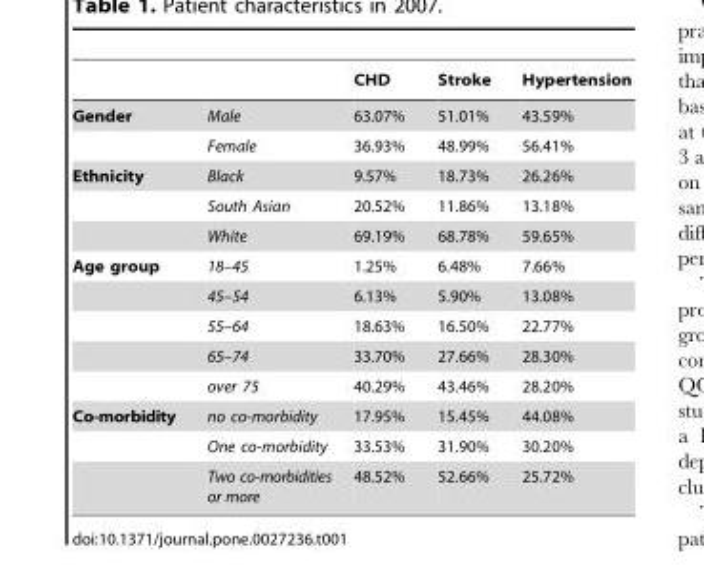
<table><thead><tr><td></td><td></td><td>CHD</td><td>Stroke</td><td>Hypertension</td></tr></thead><tbody><tr><td rowspan="2">Gender</td><td>Male</td><td>63.07%</td><td>51.01%</td><td>43.59%</td></tr><tr><td>Female</td><td>36.93%</td><td>48.99%</td><td>56.41%</td></tr><tr><td rowspan="3">Ethnicity</td><td>Black</td><td>9.57%</td><td>18.73%</td><td>26.26%</td></tr><tr><td>South Asian</td><td>20.52%</td><td>11.86%</td><td>13.18%</td></tr><tr><td>White</td><td>69.19%</td><td>68.78%</td><td>59.65%</td></tr><tr><td rowspan="5">Age group</td><td>18–45</td><td>1.25%</td><td>6.48%</td><td>7.66%</td></tr><tr><td>45–54</td><td>6.13%</td><td>5.90%</td><td>13.08%</td></tr><tr><td>55–64</td><td>18.63%</td><td>16.50%</td><td>22.77%</td></tr><tr><td>65–74</td><td>33.70%</td><td>27.66%</td><td>28.30%</td></tr><tr><td>over 75</td><td>40.29%</td><td>43.46%</td><td>28.20%</td></tr><tr><td rowspan="3">Co-morbidity</td><td>no co-morbidity</td><td>17.95%</td><td>15.45%</td><td>44.08%</td></tr><tr><td>One co-morbidity</td><td>33.53%</td><td>31.90%</td><td>30.20%</td></tr><tr><td>Two co-morbidities or more</td><td>48.52%</td><td>52.66%</td><td>25.72%</td></tr></tbody></table>